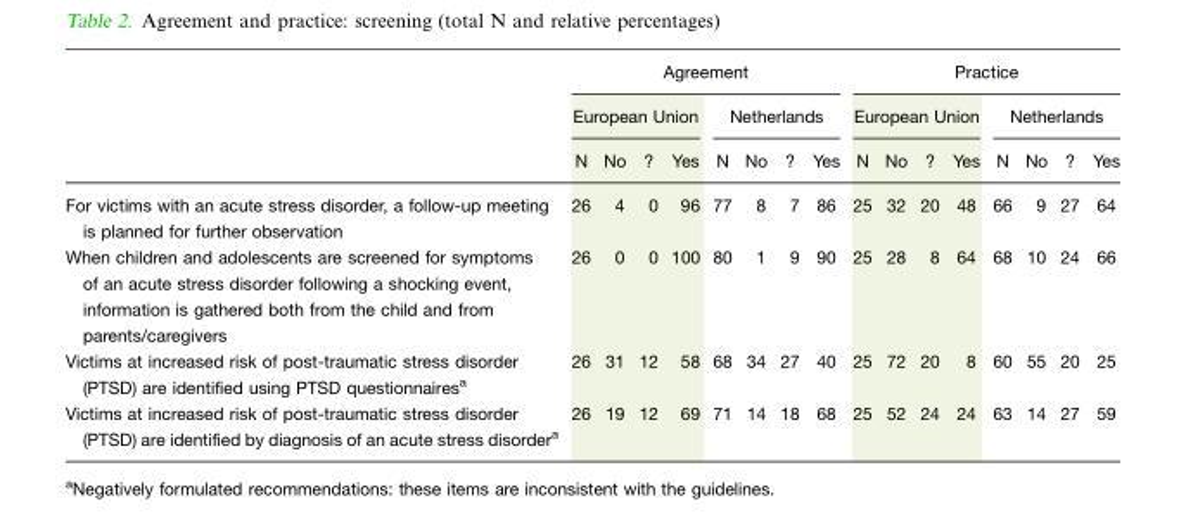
<table><thead><tr><td rowspan="3"></td><td colspan="8">Agreement</td><td colspan="8">Practice</td></tr><tr><td colspan="4">European Union</td><td colspan="4">Netherlands</td><td colspan="4">European Union</td><td colspan="4">Netherlands</td></tr><tr><td>N</td><td>No</td><td>?</td><td>Yes</td><td>N</td><td>No</td><td>?</td><td>Yes</td><td>N</td><td>No</td><td>?</td><td>Yes</td><td>N</td><td>No</td><td>?</td><td>Yes</td></tr></thead><tbody><tr><td>For victims with an acute stress disorder, a follow-up meeting is planned for further observation</td><td>26</td><td>4</td><td>0</td><td>96</td><td>77</td><td>8</td><td>7</td><td>86</td><td>25</td><td>32</td><td>20</td><td>48</td><td>66</td><td>9</td><td>27</td><td>64</td></tr><tr><td>When children and adolescents are screened for symptoms of an acute stress disorder following a shocking event, information is gathered both from the child and from parents/caregivers</td><td>26</td><td>0</td><td>0</td><td>100</td><td>80</td><td>1</td><td>9</td><td>90</td><td>25</td><td>28</td><td>8</td><td>64</td><td>68</td><td>10</td><td>24</td><td>66</td></tr><tr><td>Victims at increased risk of post-traumatic stress disorder (PTSD) are identified using PTSD questionnaires<sup>a</sup></td><td>26</td><td>31</td><td>12</td><td>58</td><td>68</td><td>34</td><td>27</td><td>40</td><td>25</td><td>72</td><td>20</td><td>8</td><td>60</td><td>55</td><td>20</td><td>25</td></tr><tr><td>Victims at increased risk of post-traumatic stress disorder (PTSD) are identified by diagnosis of an acute stress disorder<sup>a</sup></td><td>26</td><td>19</td><td>12</td><td>69</td><td>71</td><td>14</td><td>18</td><td>68</td><td>25</td><td>52</td><td>24</td><td>24</td><td>63</td><td>14</td><td>27</td><td>59</td></tr></tbody></table>